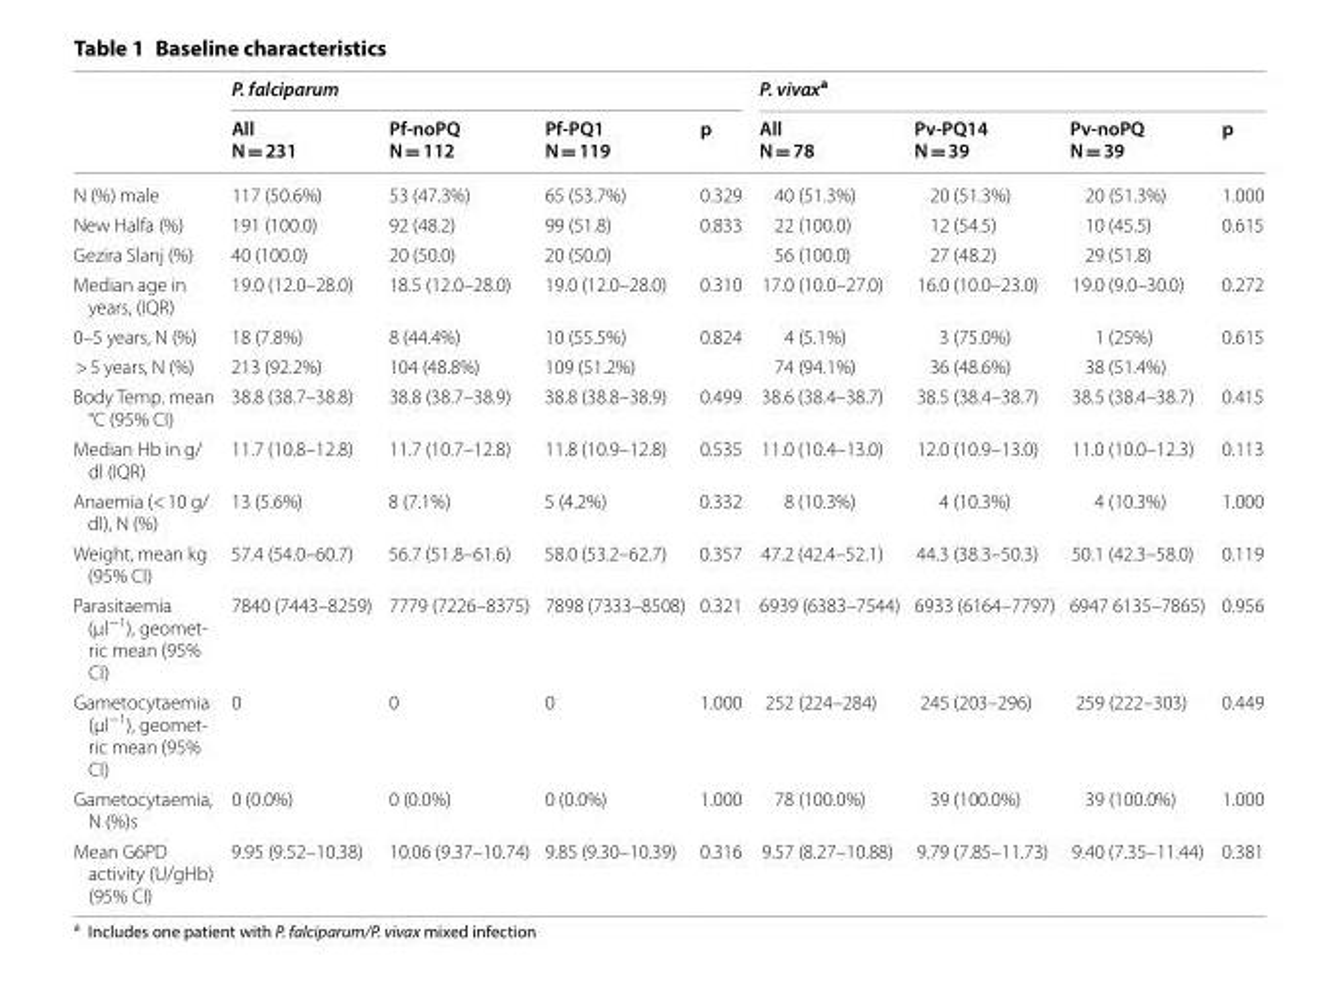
<table><thead><tr><td rowspan="2"></td><td colspan="4">P. falciparum</td><td colspan="4">P. vivax<sup>a</sup></td></tr><tr><td>All N = 231</td><td>Pf-noPQ N = 112</td><td>Pf-PQ1 N = 119</td><td>p</td><td>All N = 78</td><td>Pv-PQ14 N = 39</td><td>Pv-noPQ N = 39</td><td>p</td></tr></thead><tbody><tr><td>N (%) male</td><td>117 (50.6%)</td><td>53 (47.3%)</td><td>65 (53.7%)</td><td>0.329</td><td>40 (51.3%)</td><td>20 (51.3%)</td><td>20 (51.3%)</td><td>1.000</td></tr><tr><td>New Halfa (%)</td><td>191 (100.0)</td><td>92 (48.2)</td><td>99 (51.8)</td><td rowspan="2">0.833</td><td>22 (100.0)</td><td>12 (54.5)</td><td>10 (45.5)</td><td rowspan="2">0.615</td></tr><tr><td>Gezira Slanj (%)</td><td>40 (100.0)</td><td>20 (50.0)</td><td>20 (50.0)</td><td>56 (100.0)</td><td>27 (48.2)</td><td>29 (51.8)</td></tr><tr><td>Median age in years, (IQR)</td><td>19.0 (12.0–28.0)</td><td>18.5 (12.0–28.0)</td><td>19.0 (12.0–28.0)</td><td>0.310</td><td>17.0 (10.0–27.0)</td><td>16.0 (10.0–23.0)</td><td>19.0 (9.0–30.0)</td><td>0.272</td></tr><tr><td>0–5 years, N (%)</td><td>18 (7.8%)</td><td>8 (44.4%)</td><td>10 (55.5%)</td><td rowspan="2">0.824</td><td>4 (5.1%)</td><td>3 (75.0%)</td><td>1 (25%)</td><td rowspan="2">0.615</td></tr><tr><td>&gt; 5 years, N (%)</td><td>213 (92.2%)</td><td>104 (48.8%)</td><td>109 (51.2%)</td><td>74 (94.1%)</td><td>36 (48.6%)</td><td>38 (51.4%)</td></tr><tr><td>Body Temp. mean °C (95% CI)</td><td>38.8 (38.7–38.8)</td><td>38.8 (38.7–38.9)</td><td>38.8 (38.8–38.9)</td><td>0.499</td><td>38.6 (38.4–38.7)</td><td>38.5 (38.4–38.7)</td><td>38.5 (38.4–38.7)</td><td>0.415</td></tr><tr><td>Median Hb in g/ dl (IQR)</td><td>11.7 (10.8–12.8)</td><td>11.7 (10.7–12.8)</td><td>11.8 (10.9–12.8)</td><td>0.535</td><td>11.0 (10.4–13.0)</td><td>12.0 (10.9–13.0)</td><td>11.0 (10.0–12.3)</td><td>0.113</td></tr><tr><td>Anaemia (&lt; 10 g/ dl), N (%)</td><td>13 (5.6%)</td><td>8 (7.1%)</td><td>5 (4.2%)</td><td>0.332</td><td>8 (10.3%)</td><td>4 (10.3%)</td><td>4 (10.3%)</td><td>1.000</td></tr><tr><td>Weight, mean kg (95% CI)</td><td>57.4 (54.0–60.7)</td><td>56.7 (51.8–61.6)</td><td>58.0 (53.2–62.7)</td><td>0.357</td><td>47.2 (42.4–52.1)</td><td>44.3 (38.3–50.3)</td><td>50.1 (42.3–58.0)</td><td>0.119</td></tr><tr><td>Parasitaemia (µl−1), geomet- ric mean (95% CI)</td><td>7840 (7443–8259)</td><td>7779 (7226–8375)</td><td>7898 (7333–8508)</td><td>0.321</td><td>6939 (6383–7544)</td><td>6933 (6164–7797)</td><td>6947 6135–7865)</td><td>0.956</td></tr><tr><td>Gametocytaemia (µl−1), geomet- ric mean (95% CI)</td><td>0</td><td>0</td><td>0</td><td>1.000</td><td>252 (224–284)</td><td>245 (203–296)</td><td>259 (222–303)</td><td>0.449</td></tr><tr><td>Gametocytaemia, N (%)s</td><td>0 (0.0%)</td><td>0 (0.0%)</td><td>0 (0.0%)</td><td>1.000</td><td>78 (100.0%)</td><td>39 (100.0%)</td><td>39 (100.0%)</td><td>1.000</td></tr><tr><td>Mean G6PD activity (U/gHb) (95% CI)</td><td>9.95 (9.52–10.38)</td><td>10.06 (9.37–10.74)</td><td>9.85 (9.30–10.39)</td><td>0.316</td><td>9.57 (8.27–10.88)</td><td>9.79 (7.85–11.73)</td><td>9.40 (7.35–11.44)</td><td>0.381</td></tr></tbody></table>